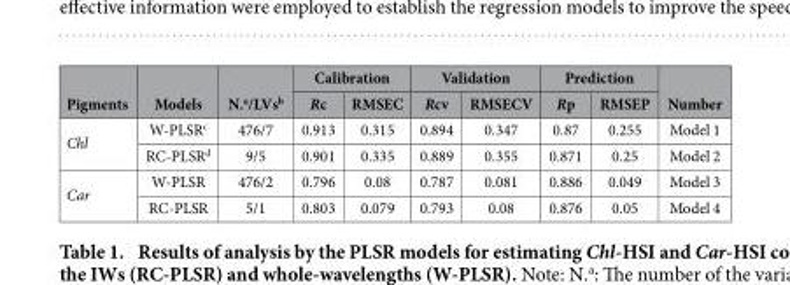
<table><thead><tr><td rowspan="2">Pigments</td><td rowspan="2">Models</td><td rowspan="2">N.<sup>a</sup>/LVs<sup>b</sup></td><td colspan="2">Calibration</td><td colspan="2">Validation</td><td colspan="2">Prediction</td><td rowspan="2">Number</td></tr><tr><td>Rc</td><td>RMSEC</td><td>Rcv</td><td>RMSECV</td><td>Rp</td><td>RMSEP</td></tr></thead><tbody><tr><td rowspan="2">Chl</td><td>W-PLSR<sup>c</sup></td><td>476/7</td><td>0.913</td><td>0.315</td><td>0.894</td><td>0.347</td><td>0.87</td><td>0.255</td><td>Model 1</td></tr><tr><td>RC-PLSR<sup>d</sup></td><td>9/5</td><td>0.901</td><td>0.335</td><td>0.889</td><td>0.355</td><td>0.871</td><td>0.25</td><td>Model 2</td></tr><tr><td rowspan="2">Car</td><td>W-PLSR</td><td>476/2</td><td>0.796</td><td>0.08</td><td>0.787</td><td>0.081</td><td>0.886</td><td>0.049</td><td>Model 3</td></tr><tr><td>RC-PLSR</td><td>5/1</td><td>0.803</td><td>0.079</td><td>0.793</td><td>0.08</td><td>0.876</td><td>0.05</td><td>Model 4</td></tr></tbody></table>